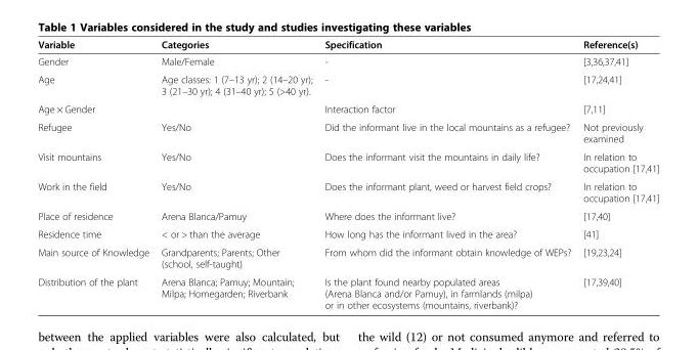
<table><thead><tr><td>Variable</td><td>Categories</td><td>Specification</td><td>Reference(s)</td></tr></thead><tbody><tr><td>Gender</td><td>Male/Female</td><td>-</td><td>[3,36,37,41]</td></tr><tr><td>Age</td><td>Age classes: 1 (7–13 yr); 2 (14–20 yr); 3 (21–30 yr); 4 (31–40 yr); 5 (&gt;40 yr).</td><td>-</td><td>[17,24,41]</td></tr><tr><td>Age × Gender</td><td></td><td>Interaction factor</td><td>[7,11]</td></tr><tr><td>Refugee</td><td>Yes/No</td><td>Did the informant live in the local mountains as a refugee?</td><td>Not previously examined</td></tr><tr><td>Visit mountains</td><td>Yes/No</td><td>Does the informant visit the mountains in daily life?</td><td>In relation to occupation [17,41]</td></tr><tr><td>Work in the field</td><td>Yes/No</td><td>Does the informant plant, weed or harvest field crops?</td><td>In relation to occupation [17,41]</td></tr><tr><td>Place of residence</td><td>Arena Blanca/Pamuy</td><td>Where does the informant live?</td><td>[17,40]</td></tr><tr><td>Residence time</td><td>&lt; or &gt; than the average</td><td>How long has the informant lived in the area?</td><td>[41]</td></tr><tr><td>Main source of Knowledge</td><td>Grandparents; Parents; Other (school, self-taught)</td><td>From whom did the informant obtain knowledge of WEPs?</td><td>[19,23,24]</td></tr><tr><td>Distribution of the plant</td><td>Arena Blanca; Pamuy; Mountain; Milpa; Homegarden; Riverbank</td><td>Is the plant found nearby populated areas (Arena Blanca and/or Pamuy), in farmlands (milpa) or in other ecosystems (mountains, riverbank)?</td><td>[17,39,40]</td></tr></tbody></table>